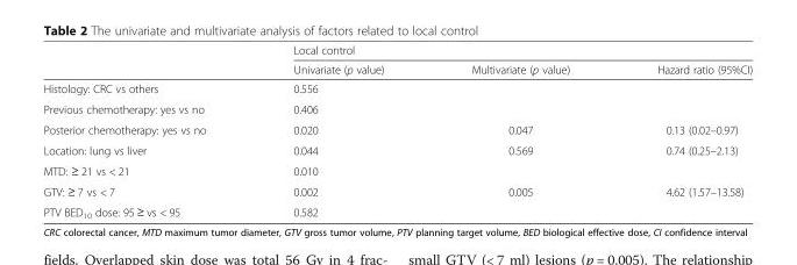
<table><thead><tr><td rowspan="2"></td><td colspan="3">Local control</td></tr><tr><td>Univariate (p value)</td><td>Multivariate (p value)</td><td>Hazard ratio (95%CI)</td></tr></thead><tbody><tr><td>Histology: CRC vs others</td><td>0.556</td><td></td><td></td></tr><tr><td>Previous chemotherapy: yes vs no</td><td>0.406</td><td></td><td></td></tr><tr><td>Posterior chemotherapy: yes vs no</td><td>0.020</td><td>0.047</td><td>0.13 (0.02–0.97)</td></tr><tr><td>Location: lung vs liver</td><td>0.044</td><td>0.569</td><td>0.74 (0.25–2.13)</td></tr><tr><td>MTD: ≥ 21 vs &lt; 21</td><td>0.010</td><td></td><td></td></tr><tr><td>GTV: ≥ 7 vs &lt; 7</td><td>0.002</td><td>0.005</td><td>4.62 (1.57–13.58)</td></tr><tr><td>PTV BED<sub>10</sub> dose: 95 ≥ vs &lt; 95</td><td>0.582</td><td></td><td></td></tr></tbody></table>